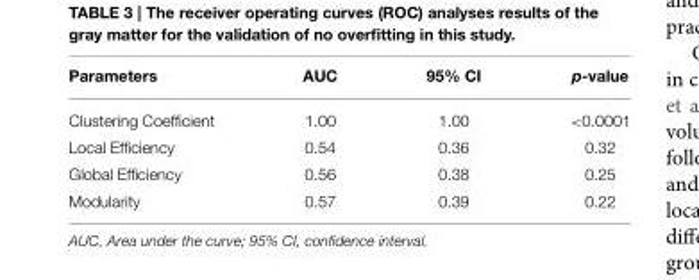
<table><thead><tr><td>Parameters</td><td>AUC</td><td>95% CI</td><td>p-value</td></tr></thead><tbody><tr><td>Clustering Coefficient</td><td>1.00</td><td>1.00</td><td>&lt;0.0001</td></tr><tr><td>Local Efficiency</td><td>0.54</td><td>0.36</td><td>0.32</td></tr><tr><td>Global Efficiency</td><td>0.56</td><td>0.38</td><td>0.25</td></tr><tr><td>Modularity</td><td>0.57</td><td>0.39</td><td>0.22</td></tr></tbody></table>